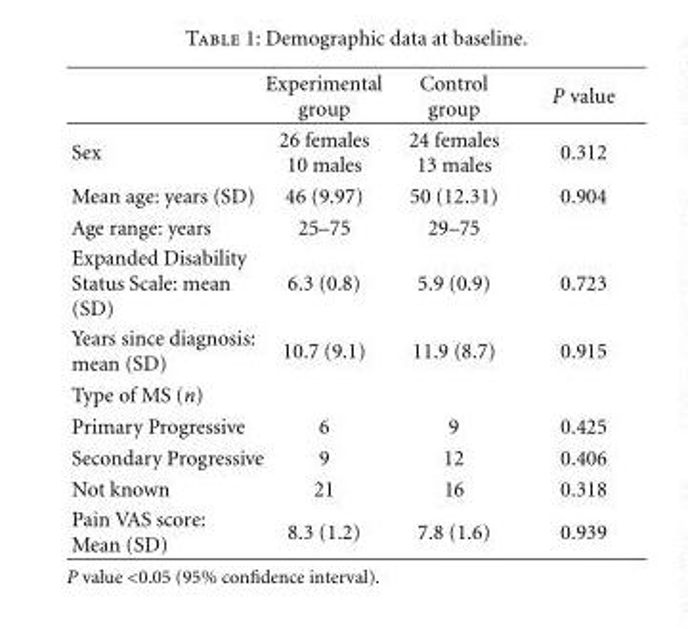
<table><thead><tr><td></td><td>Experimental group</td><td>Control group</td><td>P value</td></tr></thead><tbody><tr><td>Sex</td><td>26 females 10 males</td><td>24 females 13 males</td><td>0.312</td></tr><tr><td>Mean age: years (SD)</td><td>46 (9.97)</td><td>50 (12.31)</td><td>0.904</td></tr><tr><td>Age range: years</td><td>25–75</td><td>29–75</td><td></td></tr><tr><td>Expanded Disability Status Scale: mean (SD)</td><td>6.3 (0.8)</td><td>5.9 (0.9)</td><td>0.723</td></tr><tr><td>Years since diagnosis: mean (SD)</td><td>10.7 (9.1)</td><td>11.9 (8.7)</td><td>0.915</td></tr><tr><td colspan="4">Type of MS (n)</td></tr><tr><td>Primary Progressive</td><td>6</td><td>9</td><td>0.425</td></tr><tr><td>Secondary Progressive</td><td>9</td><td>12</td><td>0.406</td></tr><tr><td>Not known</td><td>21</td><td>16</td><td>0.318</td></tr><tr><td>Pain VAS score: Mean (SD)</td><td>8.3 (1.2)</td><td>7.8 (1.6)</td><td>0.939</td></tr></tbody></table>